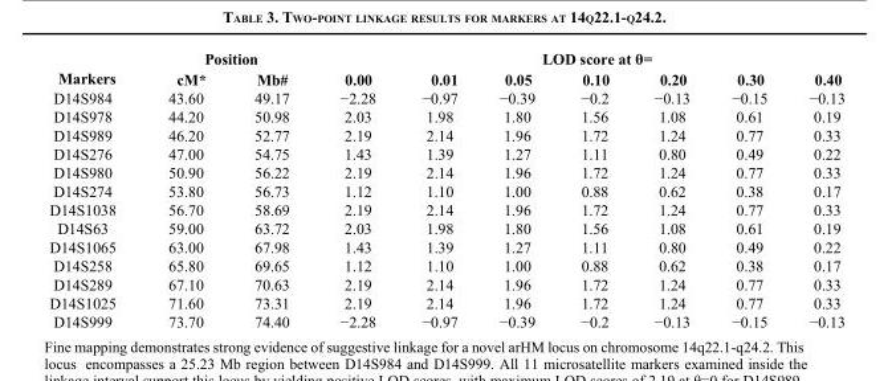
<table><thead><tr><td rowspan="2">Markers</td><td colspan="2">Position</td><td colspan="7">LOD score at θ=</td></tr><tr><td>cM*</td><td>Mb#</td><td>0.00</td><td>0.01</td><td>0.05</td><td>0.10</td><td>0.20</td><td>0.30</td><td>0.40</td></tr></thead><tbody><tr><td>D14S984</td><td>43.60</td><td>49.17</td><td>−2.28</td><td>−0.97</td><td>−0.39</td><td>−0.2</td><td>−0.13</td><td>−0.15</td><td>−0.13</td></tr><tr><td>D14S978</td><td>44.20</td><td>50.98</td><td>2.03</td><td>1.98</td><td>1.80</td><td>1.56</td><td>1.08</td><td>0.61</td><td>0.19</td></tr><tr><td>D14S989</td><td>46.20</td><td>52.77</td><td>2.19</td><td>2.14</td><td>1.96</td><td>1.72</td><td>1.24</td><td>0.77</td><td>0.33</td></tr><tr><td>D14S276</td><td>47.00</td><td>54.75</td><td>1.43</td><td>1.39</td><td>1.27</td><td>1.11</td><td>0.80</td><td>0.49</td><td>0.22</td></tr><tr><td>D14S980</td><td>50.90</td><td>56.22</td><td>2.19</td><td>2.14</td><td>1.96</td><td>1.72</td><td>1.24</td><td>0.77</td><td>0.33</td></tr><tr><td>D14S274</td><td>53.80</td><td>56.73</td><td>1.12</td><td>1.10</td><td>1.00</td><td>0.88</td><td>0.62</td><td>0.38</td><td>0.17</td></tr><tr><td>D14S1038</td><td>56.70</td><td>58.69</td><td>2.19</td><td>2.14</td><td>1.96</td><td>1.72</td><td>1.24</td><td>0.77</td><td>0.33</td></tr><tr><td>D14S63</td><td>59.00</td><td>63.72</td><td>2.03</td><td>1.98</td><td>1.80</td><td>1.56</td><td>1.08</td><td>0.61</td><td>0.19</td></tr><tr><td>D14S1065</td><td>63.00</td><td>67.98</td><td>1.43</td><td>1.39</td><td>1.27</td><td>1.11</td><td>0.80</td><td>0.49</td><td>0.22</td></tr><tr><td>D14S258</td><td>65.80</td><td>69.65</td><td>1.12</td><td>1.10</td><td>1.00</td><td>0.88</td><td>0.62</td><td>0.38</td><td>0.17</td></tr><tr><td>D14S289</td><td>67.10</td><td>70.63</td><td>2.19</td><td>2.14</td><td>1.96</td><td>1.72</td><td>1.24</td><td>0.77</td><td>0.33</td></tr><tr><td>D14S1025</td><td>71.60</td><td>73.31</td><td>2.19</td><td>2.14</td><td>1.96</td><td>1.72</td><td>1.24</td><td>0.77</td><td>0.33</td></tr><tr><td>D14S999</td><td>73.70</td><td>74.40</td><td>−2.28</td><td>−0.97</td><td>−0.39</td><td>−0.2</td><td>−0.13</td><td>−0.15</td><td>−0.13</td></tr></tbody></table>